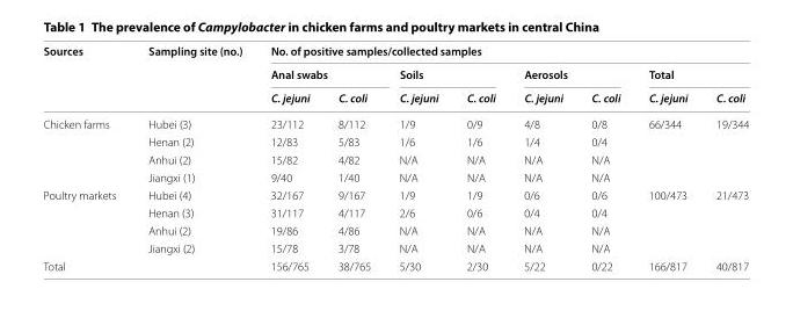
<table><thead><tr><td rowspan="3">Sources</td><td rowspan="3">Sampling site (no.)</td><td colspan="8">No. of positive samples/collected samples</td></tr><tr><td colspan="2">Anal swabs</td><td colspan="2">Soils</td><td colspan="2">Aerosols</td><td colspan="2">Total</td></tr><tr><td>C. jejuni</td><td>C. coli</td><td>C. jejuni</td><td>C. coli</td><td>C. jejuni</td><td>C. coli</td><td>C. jejuni</td><td>C. coli</td></tr></thead><tbody><tr><td rowspan="4">Chicken farms</td><td>Hubei (3)</td><td>23/112</td><td>8/112</td><td>1/9</td><td>0/9</td><td>4/8</td><td>0/8</td><td rowspan="4">66/344</td><td rowspan="4">19/344</td></tr><tr><td>Henan (2)</td><td>12/83</td><td>5/83</td><td>1/6</td><td>1/6</td><td>1/4</td><td>0/4</td></tr><tr><td>Anhui (2)</td><td>15/82</td><td>4/82</td><td>N/A</td><td>N/A</td><td>N/A</td><td>N/A</td></tr><tr><td>Jiangxi (1)</td><td>9/40</td><td>1/40</td><td>N/A</td><td>N/A</td><td>N/A</td><td>N/A</td></tr><tr><td rowspan="4">Poultry markets</td><td>Hubei (4)</td><td>32/167</td><td>9/167</td><td>1/9</td><td>1/9</td><td>0/6</td><td>0/6</td><td rowspan="4">100/473</td><td rowspan="4">21/473</td></tr><tr><td>Henan (3)</td><td>31/117</td><td>4/117</td><td>2/6</td><td>0/6</td><td>0/4</td><td>0/4</td></tr><tr><td>Anhui (2)</td><td>19/86</td><td>4/86</td><td>N/A</td><td>N/A</td><td>N/A</td><td>N/A</td></tr><tr><td>Jiangxi (2)</td><td>15/78</td><td>3/78</td><td>N/A</td><td>N/A</td><td>N/A</td><td>N/A</td></tr><tr><td colspan="2">Total</td><td>156/765</td><td>38/765</td><td>5/30</td><td>2/30</td><td>5/22</td><td>0/22</td><td>166/817</td><td>40/817</td></tr></tbody></table>